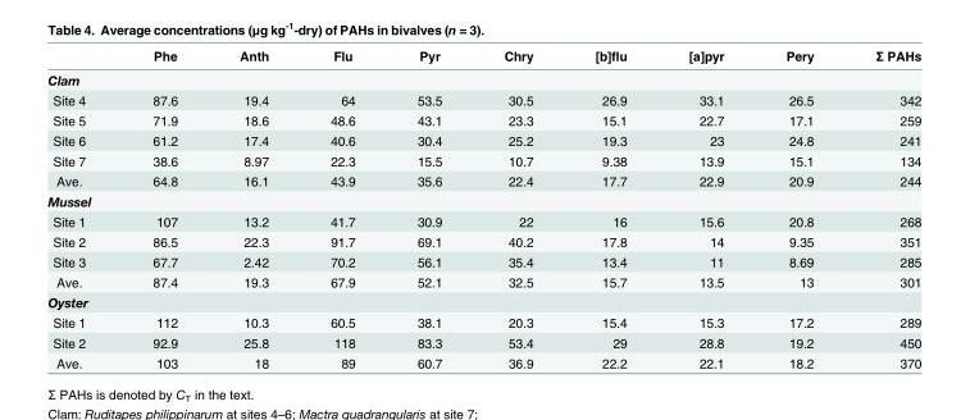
<table><thead><tr><td></td><td>Phe</td><td>Anth</td><td>Flu</td><td>Pyr</td><td>Chry</td><td>[b]flu</td><td>[a]pyr</td><td>Pery</td><td>Σ PAHs</td></tr></thead><tbody><tr><td colspan="10">Clam</td></tr><tr><td>Site 4</td><td>87.6</td><td>19.4</td><td>64</td><td>53.5</td><td>30.5</td><td>26.9</td><td>33.1</td><td>26.5</td><td>342</td></tr><tr><td>Site 5</td><td>71.9</td><td>18.6</td><td>48.6</td><td>43.1</td><td>23.3</td><td>15.1</td><td>22.7</td><td>17.1</td><td>259</td></tr><tr><td>Site 6</td><td>61.2</td><td>17.4</td><td>40.6</td><td>30.4</td><td>25.2</td><td>19.3</td><td>23</td><td>24.8</td><td>241</td></tr><tr><td>Site 7</td><td>38.6</td><td>8.97</td><td>22.3</td><td>15.5</td><td>10.7</td><td>9.38</td><td>13.9</td><td>15.1</td><td>134</td></tr><tr><td>Ave.</td><td>64.8</td><td>16.1</td><td>43.9</td><td>35.6</td><td>22.4</td><td>17.7</td><td>22.9</td><td>20.9</td><td>244</td></tr><tr><td colspan="10">Mussel</td></tr><tr><td>Site 1</td><td>107</td><td>13.2</td><td>41.7</td><td>30.9</td><td>22</td><td>16</td><td>15.6</td><td>20.8</td><td>268</td></tr><tr><td>Site 2</td><td>86.5</td><td>22.3</td><td>91.7</td><td>69.1</td><td>40.2</td><td>17.8</td><td>14</td><td>9.35</td><td>351</td></tr><tr><td>Site 3</td><td>67.7</td><td>2.42</td><td>70.2</td><td>56.1</td><td>35.4</td><td>13.4</td><td>11</td><td>8.69</td><td>285</td></tr><tr><td>Ave.</td><td>87.4</td><td>19.3</td><td>67.9</td><td>52.1</td><td>32.5</td><td>15.7</td><td>13.5</td><td>13</td><td>301</td></tr><tr><td colspan="10">Oyster</td></tr><tr><td>Site 1</td><td>112</td><td>10.3</td><td>60.5</td><td>38.1</td><td>20.3</td><td>15.4</td><td>15.3</td><td>17.2</td><td>289</td></tr><tr><td>Site 2</td><td>92.9</td><td>25.8</td><td>118</td><td>83.3</td><td>53.4</td><td>29</td><td>28.8</td><td>19.2</td><td>450</td></tr><tr><td>Ave.</td><td>103</td><td>18</td><td>89</td><td>60.7</td><td>36.9</td><td>22.2</td><td>22.1</td><td>18.2</td><td>370</td></tr></tbody></table>